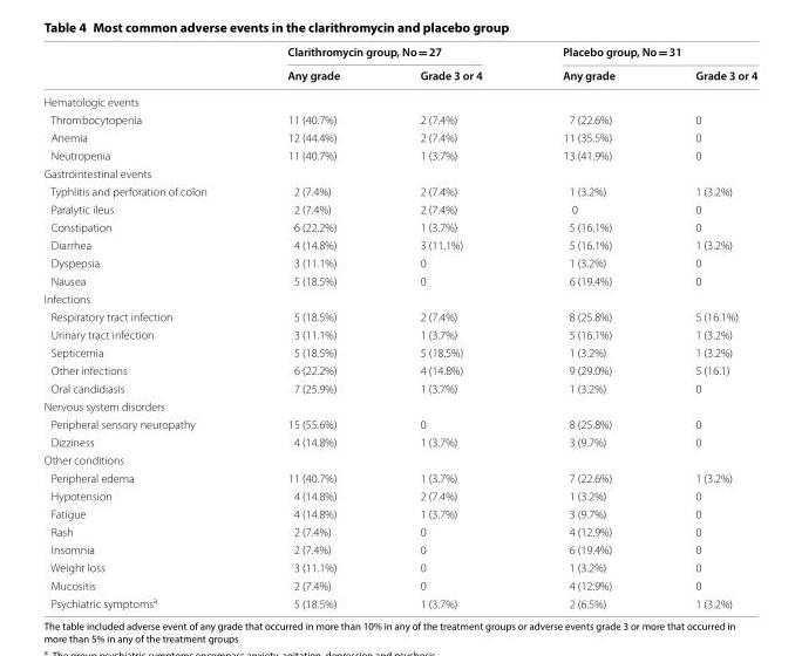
<table><thead><tr><td rowspan="2"></td><td colspan="2">Clarithromycin group, No = 27</td><td colspan="2">Placebo group, No = 31</td></tr><tr><td>Any grade</td><td>Grade 3 or 4</td><td>Any grade</td><td>Grade 3 or 4</td></tr></thead><tbody><tr><td colspan="5">Hematologic events</td></tr><tr><td>Thrombocytopenia</td><td>11 (40.7%)</td><td>2 (7.4%)</td><td>7 (22.6%)</td><td>0</td></tr><tr><td>Anemia</td><td>12 (44.4%)</td><td>2 (7.4%)</td><td>11 (35.5%)</td><td>0</td></tr><tr><td>Neutropenia</td><td>11 (40.7%)</td><td>1 (3.7%)</td><td>13 (41.9%)</td><td>0</td></tr><tr><td colspan="5">Gastrointestinal events</td></tr><tr><td>Typhlitis and perforation of colon</td><td>2 (7.4%)</td><td>2 (7.4%)</td><td>1 (3.2%)</td><td>1 (3.2%)</td></tr><tr><td>Paralytic ileus</td><td>2 (7.4%)</td><td>2 (7.4%)</td><td>0</td><td>0</td></tr><tr><td>Constipation</td><td>6 (22.2%)</td><td>1 (3.7%)</td><td>5 (16.1%)</td><td>0</td></tr><tr><td>Diarrhea</td><td>4 (14.8%)</td><td>3 (11.1%)</td><td>5 (16.1%)</td><td>1 (3.2%)</td></tr><tr><td>Dyspepsia</td><td>3 (11.1%)</td><td>0</td><td>1 (3.2%)</td><td>0</td></tr><tr><td>Nausea</td><td>5 (18.5%)</td><td>0</td><td>6 (19.4%)</td><td>0</td></tr><tr><td colspan="5">Infections</td></tr><tr><td>Respiratory tract infection</td><td>5 (18.5%)</td><td>2 (7.4%)</td><td>8 (25.8%)</td><td>5 (16.1%)</td></tr><tr><td>Urinary tract infection</td><td>3 (11.1%)</td><td>1 (3.7%)</td><td>5 (16.1%)</td><td>1 (3.2%)</td></tr><tr><td>Septicemia</td><td>5 (18.5%)</td><td>5 (18.5%)</td><td>1 (3.2%)</td><td>1 (3.2%)</td></tr><tr><td>Other infections</td><td>6 (22.2%)</td><td>4 (14.8%)</td><td>9 (29.0%)</td><td>5 (16.1)</td></tr><tr><td>Oral candidiasis</td><td>7 (25.9%)</td><td>1 (3.7%)</td><td>1 (3.2%)</td><td>0</td></tr><tr><td colspan="5">Nervous system disorders</td></tr><tr><td>Peripheral sensory neuropathy</td><td>15 (55.6%)</td><td>0</td><td>8 (25.8%)</td><td>0</td></tr><tr><td>Dizziness</td><td>4 (14.8%)</td><td>1 (3.7%)</td><td>3 (9.7%)</td><td>0</td></tr><tr><td colspan="5">Other conditions</td></tr><tr><td>Peripheral edema</td><td>11 (40.7%)</td><td>1 (3.7%)</td><td>7 (22.6%)</td><td>1 (3.2%)</td></tr><tr><td>Hypotension</td><td>4 (14.8%)</td><td>2 (7.4%)</td><td>1 (3.2%)</td><td>0</td></tr><tr><td>Fatigue</td><td>4 (14.8%)</td><td>1 (3.7%)</td><td>3 (9.7%)</td><td>0</td></tr><tr><td>Rash</td><td>2 (7.4%)</td><td>0</td><td>4 (12.9%)</td><td>0</td></tr><tr><td>Insomnia</td><td>2 (7.4%)</td><td>0</td><td>6 (19.4%)</td><td>0</td></tr><tr><td>Weight loss</td><td>3 (11.1%)</td><td>0</td><td>1 (3.2%)</td><td>0</td></tr><tr><td>Mucositis</td><td>2 (7.4%)</td><td>0</td><td>4 (12.9%)</td><td>0</td></tr><tr><td>Psychiatric symptoms<sup>a</sup></td><td>5 (18.5%)</td><td>1 (3.7%)</td><td>2 (6.5%)</td><td>1 (3.2%)</td></tr></tbody></table>